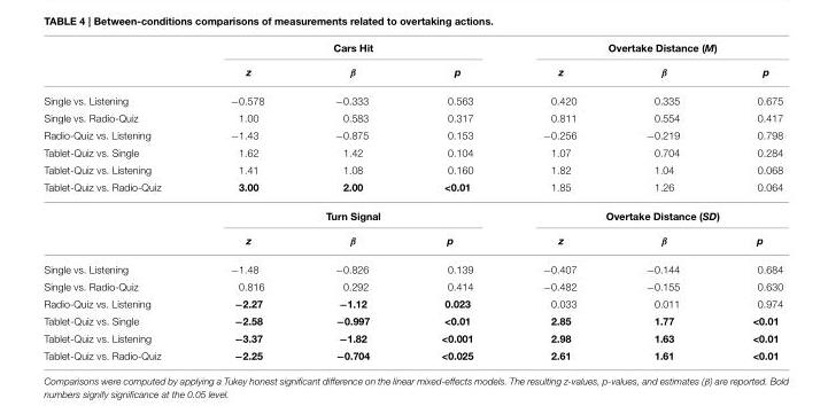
<table><thead><tr><td rowspan="2"></td><td colspan="3">Cars Hit</td><td colspan="3">Overtake Distance (M)</td></tr><tr><td>z</td><td>β</td><td>p</td><td>z</td><td>β</td><td>p</td></tr></thead><tbody><tr><td>Single vs. Listening</td><td>−0.578</td><td>−0.333</td><td>0.563</td><td>0.420</td><td>0.335</td><td>0.675</td></tr><tr><td>Single vs. Radio-Quiz</td><td>1.00</td><td>0.583</td><td>0.317</td><td>0.811</td><td>0.554</td><td>0.417</td></tr><tr><td>Radio-Quiz vs. Listening</td><td>−1.43</td><td>−0.875</td><td>0.153</td><td>−0.256</td><td>−0.219</td><td>0.798</td></tr><tr><td>Tablet-Quiz vs. Single</td><td>1.62</td><td>1.42</td><td>0.104</td><td>1.07</td><td>0.704</td><td>0.284</td></tr><tr><td>Tablet-Quiz vs. Listening</td><td>1.41</td><td>1.08</td><td>0.160</td><td>1.82</td><td>1.04</td><td>0.068</td></tr><tr><td rowspan="3">Tablet-Quiz vs. Radio-Quiz</td><td>3.00</td><td>2.00</td><td>&lt;0.01</td><td>1.85</td><td>1.26</td><td>0.064</td></tr><tr><td colspan="3">Turn Signal</td><td colspan="3">Overtake Distance (SD)</td></tr><tr><td>z</td><td>β</td><td>p</td><td>z</td><td>β</td><td>p</td></tr><tr><td>Single vs. Listening</td><td>−1.48</td><td>−0.826</td><td>0.139</td><td>−0.407</td><td>−0.144</td><td>0.684</td></tr><tr><td>Single vs. Radio-Quiz</td><td>0.816</td><td>0.292</td><td>0.414</td><td>−0.482</td><td>−0.155</td><td>0.630</td></tr><tr><td>Radio-Quiz vs. Listening</td><td>−2.27</td><td>−1.12</td><td>0.023</td><td>0.033</td><td>0.011</td><td>0.974</td></tr><tr><td>Tablet-Quiz vs. Single</td><td>−2.58</td><td>−0.997</td><td>&lt;0.01</td><td>2.85</td><td>1.77</td><td>&lt;0.01</td></tr><tr><td>Tablet-Quiz vs. Listening</td><td>−3.37</td><td>−1.82</td><td>&lt;0.001</td><td>2.98</td><td>1.63</td><td>&lt;0.01</td></tr><tr><td>Tablet-Quiz vs. Radio-Quiz</td><td>−2.25</td><td>−0.704</td><td>&lt;0.025</td><td>2.61</td><td>1.61</td><td>&lt;0.01</td></tr></tbody></table>